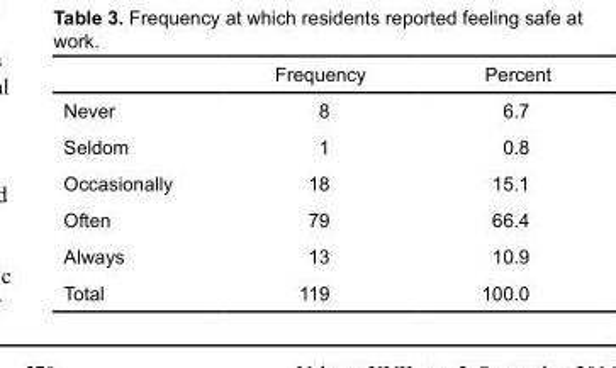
<table><thead><tr><td></td><td>Frequency</td><td>Percent</td></tr></thead><tbody><tr><td>Never</td><td>8</td><td>6.7</td></tr><tr><td>Seldom</td><td>1</td><td>0.8</td></tr><tr><td>Occasionally</td><td>18</td><td>15.1</td></tr><tr><td>Often</td><td>79</td><td>66.4</td></tr><tr><td>Always</td><td>13</td><td>10.9</td></tr><tr><td>Total</td><td>119</td><td>100.0</td></tr></tbody></table>